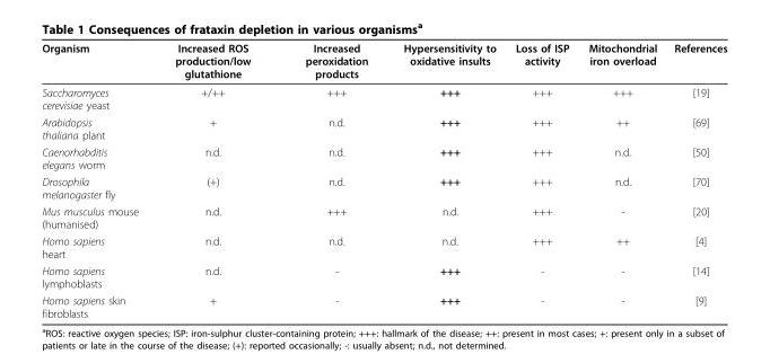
<table><thead><tr><td>Organism</td><td>Increased ROS production/low glutathione</td><td>Increased peroxidation products</td><td>Hypersensitivity to oxidative insults</td><td>Loss of ISP activity</td><td>Mitochondrial iron overload</td><td>References</td></tr></thead><tbody><tr><td>Saccharomyces cerevisiae yeast</td><td>+/++</td><td>+++</td><td>+++</td><td>+++</td><td>+++</td><td>[19]</td></tr><tr><td>Arabidopsis thaliana plant</td><td>+</td><td>n.d.</td><td>+++</td><td>+++</td><td>++</td><td>[69]</td></tr><tr><td>Caenorhabditis elegans worm</td><td>n.d.</td><td>n.d.</td><td>+++</td><td>+++</td><td>n.d.</td><td>[50]</td></tr><tr><td>Drosophila melanogaster fly</td><td>(+)</td><td>n.d.</td><td>+++</td><td>+++</td><td>n.d.</td><td>[70]</td></tr><tr><td>Mus musculus mouse (humanised)</td><td>n.d.</td><td>+++</td><td>n.d.</td><td>+++</td><td>-</td><td>[20]</td></tr><tr><td>Homo sapiens heart</td><td>n.d.</td><td>n.d.</td><td>n.d.</td><td>+++</td><td>++</td><td>[4]</td></tr><tr><td>Homo sapiens lymphoblasts</td><td>n.d.</td><td>-</td><td>+++</td><td>-</td><td>-</td><td>[14]</td></tr><tr><td>Homo sapiens skin fibroblasts</td><td>+</td><td>-</td><td>+++</td><td>-</td><td>-</td><td>[9]</td></tr></tbody></table>